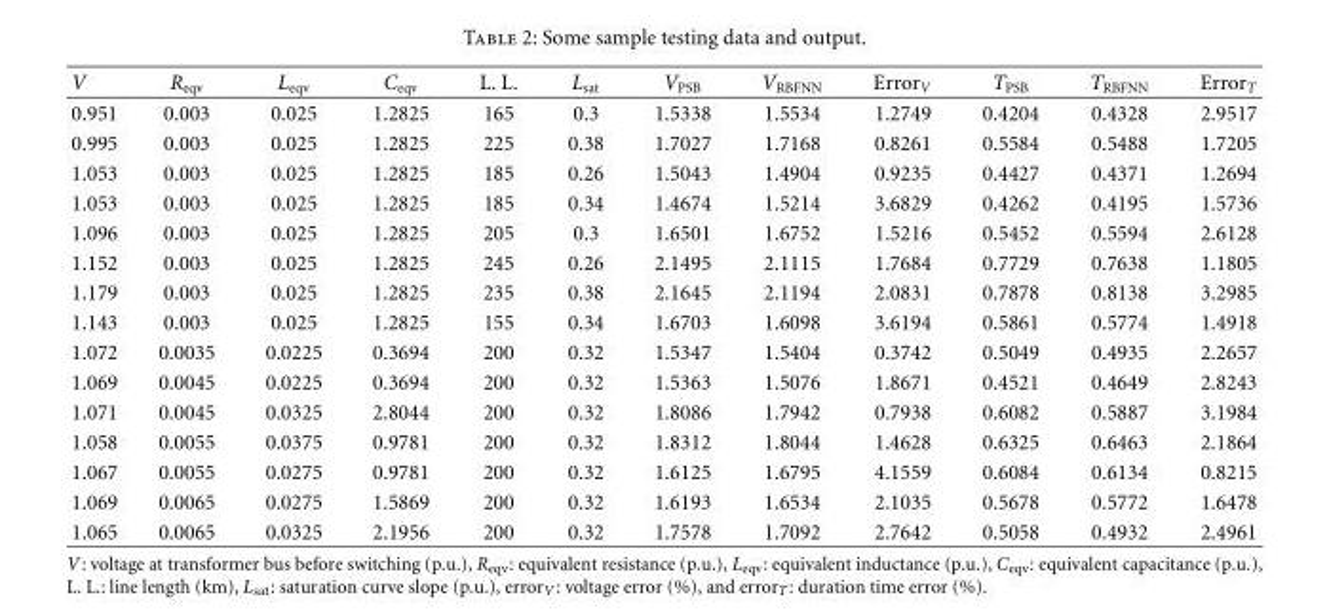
<table><thead><tr><td>V</td><td>R<sub>eqv</sub></td><td>L<sub>eqv</sub></td><td>C<sub>eqv</sub></td><td>L. L.</td><td>L<sub>sat</sub></td><td>V<sub>PSB</sub></td><td>V<sub>RBFNN</sub></td><td>Error<sub>V</sub></td><td>T<sub>PSB</sub></td><td>T<sub>RBFNN</sub></td><td>Error<sub>T</sub></td></tr></thead><tbody><tr><td>0.951</td><td>0.003</td><td>0.025</td><td>1.2825</td><td>165</td><td>0.3</td><td>1.5338</td><td>1.5534</td><td>1.2749</td><td>0.4204</td><td>0.4328</td><td>2.9517</td></tr><tr><td>0.995</td><td>0.003</td><td>0.025</td><td>1.2825</td><td>225</td><td>0.38</td><td>1.7027</td><td>1.7168</td><td>0.8261</td><td>0.5584</td><td>0.5488</td><td>1.7205</td></tr><tr><td>1.053</td><td>0.003</td><td>0.025</td><td>1.2825</td><td>185</td><td>0.26</td><td>1.5043</td><td>1.4904</td><td>0.9235</td><td>0.4427</td><td>0.4371</td><td>1.2694</td></tr><tr><td>1.053</td><td>0.003</td><td>0.025</td><td>1.2825</td><td>185</td><td>0.34</td><td>1.4674</td><td>1.5214</td><td>3.6829</td><td>0.4262</td><td>0.4195</td><td>1.5736</td></tr><tr><td>1.096</td><td>0.003</td><td>0.025</td><td>1.2825</td><td>205</td><td>0.3</td><td>1.6501</td><td>1.6752</td><td>1.5216</td><td>0.5452</td><td>0.5594</td><td>2.6128</td></tr><tr><td>1.152</td><td>0.003</td><td>0.025</td><td>1.2825</td><td>245</td><td>0.26</td><td>2.1495</td><td>2.1115</td><td>1.7684</td><td>0.7729</td><td>0.7638</td><td>1.1805</td></tr><tr><td>1.179</td><td>0.003</td><td>0.025</td><td>1.2825</td><td>235</td><td>0.38</td><td>2.1645</td><td>2.1194</td><td>2.0831</td><td>0.7878</td><td>0.8138</td><td>3.2985</td></tr><tr><td>1.143</td><td>0.003</td><td>0.025</td><td>1.2825</td><td>155</td><td>0.34</td><td>1.6703</td><td>1.6098</td><td>3.6194</td><td>0.5861</td><td>0.5774</td><td>1.4918</td></tr><tr><td>1.072</td><td>0.0035</td><td>0.0225</td><td>0.3694</td><td>200</td><td>0.32</td><td>1.5347</td><td>1.5404</td><td>0.3742</td><td>0.5049</td><td>0.4935</td><td>2.2657</td></tr><tr><td>1.069</td><td>0.0045</td><td>0.0225</td><td>0.3694</td><td>200</td><td>0.32</td><td>1.5363</td><td>1.5076</td><td>1.8671</td><td>0.4521</td><td>0.4649</td><td>2.8243</td></tr><tr><td>1.071</td><td>0.0045</td><td>0.0325</td><td>2.8044</td><td>200</td><td>0.32</td><td>1.8086</td><td>1.7942</td><td>0.7938</td><td>0.6082</td><td>0.5887</td><td>3.1984</td></tr><tr><td>1.058</td><td>0.0055</td><td>0.0375</td><td>0.9781</td><td>200</td><td>0.32</td><td>1.8312</td><td>1.8044</td><td>1.4628</td><td>0.6325</td><td>0.6463</td><td>2.1864</td></tr><tr><td>1.067</td><td>0.0055</td><td>0.0275</td><td>0.9781</td><td>200</td><td>0.32</td><td>1.6125</td><td>1.6795</td><td>4.1559</td><td>0.6084</td><td>0.6134</td><td>0.8215</td></tr><tr><td>1.069</td><td>0.0065</td><td>0.0275</td><td>1.5869</td><td>200</td><td>0.32</td><td>1.6193</td><td>1.6534</td><td>2.1035</td><td>0.5678</td><td>0.5772</td><td>1.6478</td></tr><tr><td>1.065</td><td>0.0065</td><td>0.0325</td><td>2.1956</td><td>200</td><td>0.32</td><td>1.7578</td><td>1.7092</td><td>2.7642</td><td>0.5058</td><td>0.4932</td><td>2.4961</td></tr></tbody></table>